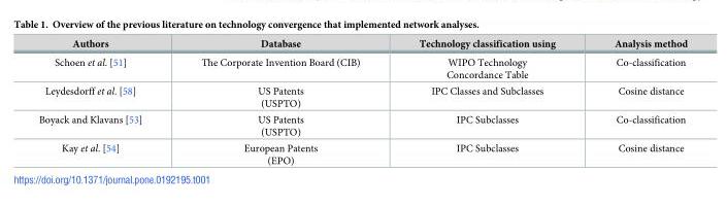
<table><thead><tr><td>Authors</td><td>Database</td><td>Technology classification using</td><td>Analysis method</td></tr></thead><tbody><tr><td>Schoen et al. [51]</td><td>The Corporate Invention Board (CIB)</td><td>WIPO Technology Concordance Table</td><td>Co-classification</td></tr><tr><td>Leydesdorff et al. [58]</td><td>US Patents (USPTO)</td><td>IPC Classes and Subclasses</td><td>Cosine distance</td></tr><tr><td>Boyack and Klavans [53]</td><td>US Patents (USPTO)</td><td>IPC Subclasses</td><td>Co-classification</td></tr><tr><td>Kay et al. [54]</td><td>European Patents (EPO)</td><td>IPC Subclasses</td><td>Cosine distance</td></tr></tbody></table>